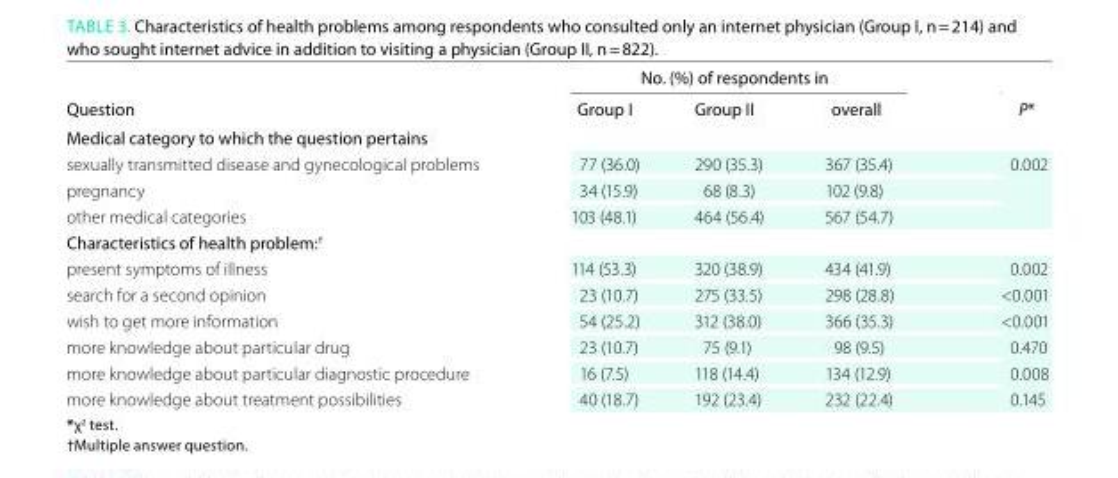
<table><thead><tr><td rowspan="2">Question</td><td colspan="3">No. (%) of respondents in</td><td rowspan="2">P*</td></tr><tr><td>Group I</td><td>Group II</td><td>overall</td></tr></thead><tbody><tr><td colspan="5">Medical category to which the question pertains</td></tr><tr><td>sexually transmitted disease and gynecological problems</td><td>77 (36.0)</td><td>290 (35.3)</td><td>367 (35.4)</td><td>0.002</td></tr><tr><td>pregnancy</td><td>34 (15.9)</td><td>68 (8.3)</td><td>102 (9.8)</td><td></td></tr><tr><td>other medical categories</td><td>103 (48.1)</td><td>464 (56.4)</td><td>567 (54.7)</td><td></td></tr><tr><td colspan="5">Characteristics of health problem:<sup>†</sup></td></tr><tr><td>present symptoms of illness</td><td>114 (53.3)</td><td>320 (38.9)</td><td>434 (41.9)</td><td>0.002</td></tr><tr><td>search for a second opinion</td><td>23 (10.7)</td><td>275 (33.5)</td><td>298 (28.8)</td><td>&lt;0.001</td></tr><tr><td>wish to get more information</td><td>54 (25.2)</td><td>312 (38.0)</td><td>366 (35.3)</td><td>&lt;0.001</td></tr><tr><td>more knowledge about particular drug</td><td>23 (10.7)</td><td>75 (9.1)</td><td>98 (9.5)</td><td>0.470</td></tr><tr><td>more knowledge about particular diagnostic procedure</td><td>16 (7.5)</td><td>118 (14.4)</td><td>134 (12.9)</td><td>0.008</td></tr><tr><td>more knowledge about treatment possibilities</td><td>40 (18.7)</td><td>192 (23.4)</td><td>232 (22.4)</td><td>0.145</td></tr></tbody></table>